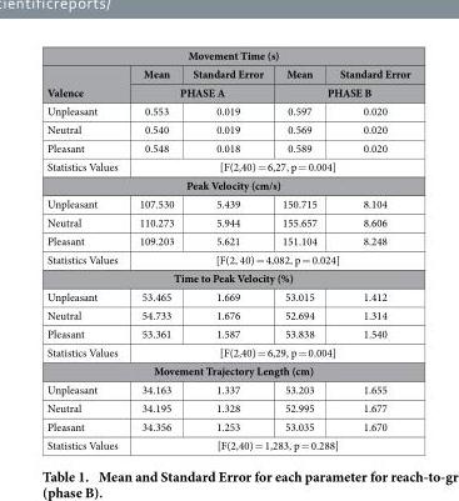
<table><thead><tr><td colspan="5">Movement Time (s)</td></tr><tr><td rowspan="2">Valence</td><td>Mean</td><td>Standard Error</td><td>Mean</td><td>Standard Error</td></tr><tr><td colspan="2">PHASE A</td><td colspan="2">PHASE B</td></tr></thead><tbody><tr><td>Unpleasant</td><td>0.553</td><td>0.019</td><td>0.597</td><td>0.020</td></tr><tr><td>Neutral</td><td>0.540</td><td>0.019</td><td>0.569</td><td>0.020</td></tr><tr><td>Pleasant</td><td>0.548</td><td>0.018</td><td>0.589</td><td>0.020</td></tr><tr><td>Statistics Values</td><td colspan="4">[F(2,40) = 6,27, p = 0.004]</td></tr><tr><td colspan="5">Peak Velocity (cm/s)</td></tr><tr><td>Unpleasant</td><td>107.530</td><td>5.439</td><td>150.715</td><td>8.104</td></tr><tr><td>Neutral</td><td>110.273</td><td>5.944</td><td>155.657</td><td>8.606</td></tr><tr><td>Pleasant</td><td>109.203</td><td>5.621</td><td>151.104</td><td>8.248</td></tr><tr><td>Statistics Values</td><td colspan="4">[F(2, 40) = 4,082, p = 0.024]</td></tr><tr><td colspan="5">Time to Peak Velocity (%)</td></tr><tr><td>Unpleasant</td><td>53.465</td><td>1.669</td><td>53.015</td><td>1.412</td></tr><tr><td>Neutral</td><td>54.733</td><td>1.676</td><td>52.694</td><td>1.314</td></tr><tr><td>Pleasant</td><td>53.361</td><td>1.587</td><td>53.838</td><td>1.540</td></tr><tr><td>Statistics Values</td><td colspan="4">[F(2,40) = 6,29, p = 0.004]</td></tr><tr><td colspan="5">Movement Trajectory Length (cm)</td></tr><tr><td>Unpleasant</td><td>34.163</td><td>1.337</td><td>53.203</td><td>1.655</td></tr><tr><td>Neutral</td><td>34.195</td><td>1.328</td><td>52.995</td><td>1.677</td></tr><tr><td>Pleasant</td><td>34.356</td><td>1.253</td><td>53.035</td><td>1.670</td></tr><tr><td>Statistics Values</td><td colspan="4">[F(2,40) = 1,283, p = 0.288]</td></tr></tbody></table>